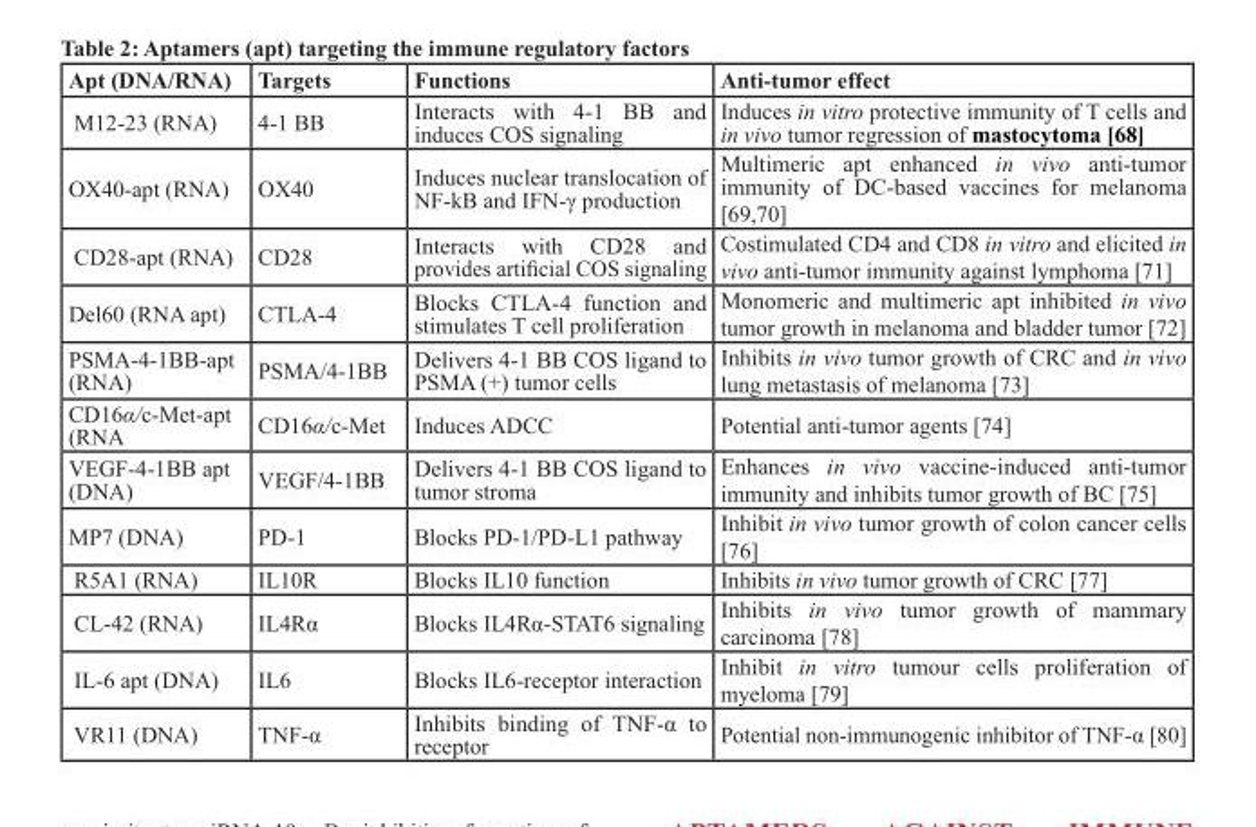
<table><thead><tr><td>Apt (DNA/RNA)</td><td>Targets</td><td>Functions</td><td>Anti-tumor effect</td></tr></thead><tbody><tr><td>M12-23 (RNA)</td><td>4-1 BB</td><td>Interacts with 4-1 BB and induces COS signaling</td><td>Induces in vitro protective immunity of T cells and in vivo tumor regression of mastocytoma [68]</td></tr><tr><td>OX40-apt (RNA)</td><td>OX40</td><td>Induces nuclear translocation of NF-kB and IFN-γ production</td><td>Multimeric apt enhanced in vivo anti-tumor immunity of DC-based vaccines for melanoma [69,70]</td></tr><tr><td>CD28-apt (RNA)</td><td>CD28</td><td>Interacts with CD28 and provides artificial COS signaling</td><td>Costimulated CD4 and CD8 in vitro and elicited in vivo anti-tumor immunity against lymphoma [71]</td></tr><tr><td>Del60 (RNA apt)</td><td>CTLA-4</td><td>Blocks CTLA-4 function and stimulates T cell proliferation</td><td>Monomeric and multimeric apt inhibited in vivo tumor growth in melanoma and bladder tumor [72]</td></tr><tr><td>PSMA-4-1BB-apt (RNA)</td><td>PSMA/4-1BB</td><td>Delivers 4-1 BB COS ligand to PSMA (+) tumor cells</td><td>Inhibits in vivo tumor growth of CRC and in vivo lung metastasis of melanoma [73]</td></tr><tr><td>CD16α/c-Met-apt (RNA</td><td>CD16α/c-Met</td><td>Induces ADCC</td><td>Potential anti-tumor agents [74]</td></tr><tr><td>VEGF-4-1BB apt (DNA)</td><td>VEGF/4-1BB</td><td>Delivers 4-1 BB COS ligand to tumor stroma</td><td>Enhances in vivo vaccine-induced anti-tumor immunity and inhibits tumor growth of BC [75]</td></tr><tr><td>MP7 (DNA)</td><td>PD-1</td><td>Blocks PD-1/PD-L1 pathway</td><td>Inhibit in vivo tumor growth of colon cancer cells [76]</td></tr><tr><td>R5A1 (RNA)</td><td>IL10R</td><td>Blocks IL10 function</td><td>Inhibits in vivo tumor growth of CRC [77]</td></tr><tr><td>CL-42 (RNA)</td><td>IL4Rα</td><td>Blocks IL4Rα-STAT6 signaling</td><td>Inhibits in vivo tumor growth of mammary carcinoma [78]</td></tr><tr><td>IL-6 apt (DNA)</td><td>IL6</td><td>Blocks IL6-receptor interaction</td><td>Inhibit in vitro tumour cells proliferation of myeloma [79]</td></tr><tr><td>VR11 (DNA)</td><td>TNF-α</td><td>Inhibits binding of TNF-α to receptor</td><td>Potential non-immunogenic inhibitor of TNF-α [80]</td></tr></tbody></table>